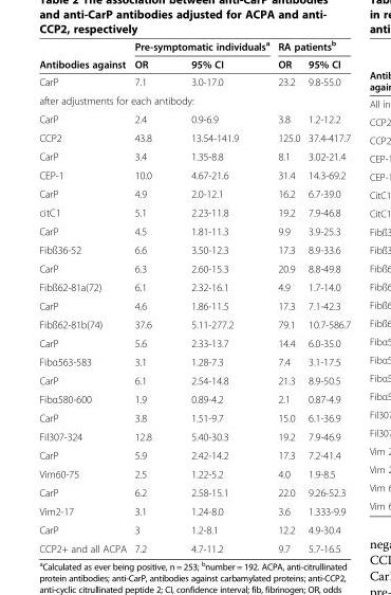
<table><thead><tr><td rowspan="2">Antibodies against</td><td colspan="2">Pre-symptomatic individuals<sup>a</sup></td><td colspan="2">RA patients<sup>b</sup></td></tr><tr><td>OR</td><td>95% CI</td><td>OR</td><td>95% CI</td></tr></thead><tbody><tr><td>CarP</td><td>7.1</td><td>3.0-17.0</td><td>23.2</td><td>9.8-55.0</td></tr><tr><td colspan="5">after adjustments for each antibody:</td></tr><tr><td>CarP</td><td>2.4</td><td>0.9-6.9</td><td>3.8</td><td>1.2-12.2</td></tr><tr><td>CCP2</td><td>43.8</td><td>13.54-141.9</td><td>125.0</td><td>37.4-417.7</td></tr><tr><td>CarP</td><td>3.4</td><td>1.35-8.8</td><td>8.1</td><td>3.02-21.4</td></tr><tr><td>CEP-1</td><td>10.0</td><td>4.67-21.6</td><td>31.4</td><td>14.3-69.2</td></tr><tr><td>CarP</td><td>4.9</td><td>2.0-12.1</td><td>16.2</td><td>6.7-39.0</td></tr><tr><td>citC1</td><td>5.1</td><td>2.23-11.8</td><td>19.2</td><td>7.9-46.8</td></tr><tr><td>CarP</td><td>4.5</td><td>1.81-11.3</td><td>9.9</td><td>3.9-25.3</td></tr><tr><td>Fibß36-52</td><td>6.6</td><td>3.50-12.3</td><td>17.3</td><td>8.9-33.6</td></tr><tr><td>CarP</td><td>6.3</td><td>2.60-15.3</td><td>20.9</td><td>8.8-49.8</td></tr><tr><td>Fibß62-81a(72)</td><td>6.1</td><td>2.32-16.1</td><td>4.9</td><td>1.7-14.0</td></tr><tr><td>CarP</td><td>4.6</td><td>1.86-11.5</td><td>17.3</td><td>7.1-42.3</td></tr><tr><td>Fibß62-81b(74)</td><td>37.6</td><td>5.11-277.2</td><td>79.1</td><td>10.7-586.7</td></tr><tr><td>CarP</td><td>5.6</td><td>2.33-13.7</td><td>14.4</td><td>6.0-35.0</td></tr><tr><td>Fibα563-583</td><td>3.1</td><td>1.28-7.3</td><td>7.4</td><td>3.1-17.5</td></tr><tr><td>CarP</td><td>6.1</td><td>2.54-14.8</td><td>21.3</td><td>8.9-50.5</td></tr><tr><td>Fibα580-600</td><td>1.9</td><td>0.89-4.2</td><td>2.1</td><td>0.87-4.9</td></tr><tr><td>CarP</td><td>3.8</td><td>1.51-9.7</td><td>15.0</td><td>6.1-36.9</td></tr><tr><td>Fil307-324</td><td>12.8</td><td>5.40-30.3</td><td>19.2</td><td>7.9-46.9</td></tr><tr><td>CarP</td><td>5.9</td><td>2.42-14.2</td><td>17.3</td><td>7.2-41.4</td></tr><tr><td>Vim60-75</td><td>2.5</td><td>1.22-5.2</td><td>4.0</td><td>1.9-8.5</td></tr><tr><td>CarP</td><td>6.2</td><td>2.58-15.1</td><td>22.0</td><td>9.26-52.3</td></tr><tr><td>Vim2-17</td><td>3.1</td><td>1.24-8.0</td><td>3.6</td><td>1.333-9.9</td></tr><tr><td>CarP</td><td>3</td><td>1.2-8.1</td><td>12.2</td><td>4.9-30.4</td></tr><tr><td>CCP2+ and all ACPA</td><td>7.2</td><td>4.7-11.2</td><td>9.7</td><td>5.7-16.5</td></tr></tbody></table>